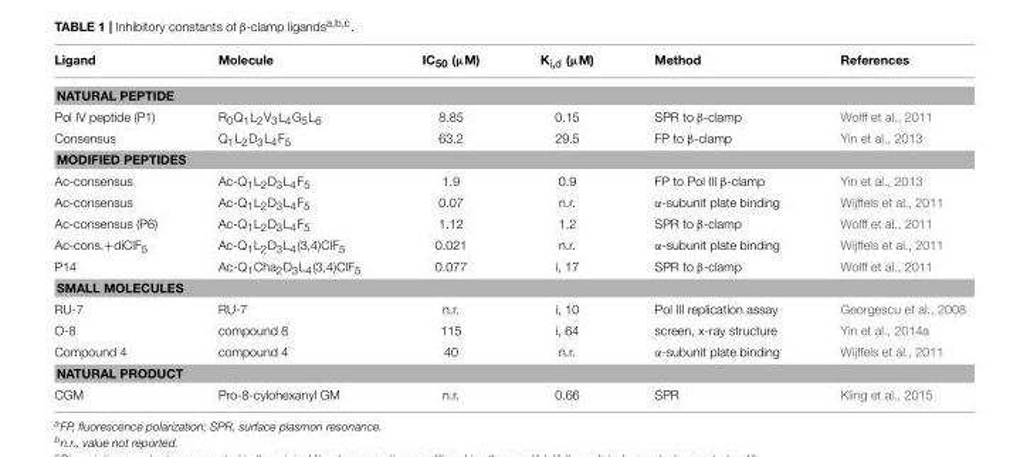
<table><thead><tr><td>Ligand</td><td>Molecule</td><td>IC<sub>50</sub> (µM)</td><td>K<sub>i,d</sub> (µM)</td><td>Method</td><td>References</td></tr></thead><tbody><tr><td colspan="6">NATURAL PEPTIDE</td></tr><tr><td>Pol IV peptide (P1)</td><td>R<sub>0</sub>Q<sub>1</sub>L<sub>2</sub>V<sub>3</sub>L<sub>4</sub>G<sub>5</sub>L<sub>6</sub></td><td>8.85</td><td>0.15</td><td>SPR to β-clamp</td><td>Wolff et al., 2011</td></tr><tr><td>Consensus</td><td>Q<sub>1</sub>L<sub>2</sub>D<sub>3</sub>L<sub>4</sub>F<sub>5</sub></td><td>63.2</td><td>29.5</td><td>FP to β-clamp</td><td>Yin et al., 2013</td></tr><tr><td colspan="6">MODIFIED PEPTIDES</td></tr><tr><td>Ac-consensus</td><td>Ac-Q<sub>1</sub>L<sub>2</sub>D<sub>3</sub>L<sub>4</sub>F<sub>5</sub></td><td>1.9</td><td>0.9</td><td>FP to Pol III β-clamp</td><td>Yin et al., 2013</td></tr><tr><td>Ac-consensus</td><td>Ac-Q<sub>1</sub>L<sub>2</sub>D<sub>3</sub>L<sub>4</sub>F<sub>5</sub></td><td>0.07</td><td>n.r.</td><td>α-subunit plate binding</td><td>Wijffels et al., 2011</td></tr><tr><td>Ac-consensus (P6)</td><td>Ac-Q<sub>1</sub>L<sub>2</sub>D<sub>3</sub>L<sub>4</sub>F<sub>5</sub></td><td>1.12</td><td>1.2</td><td>SPR to β-clamp</td><td>Wolff et al., 2011</td></tr><tr><td>Ac-cons.+diClF<sub>5</sub></td><td>Ac-Q<sub>1</sub>L<sub>2</sub>D<sub>3</sub>L<sub>4</sub>(3,4)ClF<sub>5</sub></td><td>0.021</td><td>n.r.</td><td>α-subunit plate binding</td><td>Wijffels et al., 2011</td></tr><tr><td>P14</td><td>Ac-Q<sub>1</sub>Cha<sub>2</sub>D<sub>3</sub>L<sub>4</sub>(3,4)ClF<sub>5</sub></td><td>0.077</td><td>i, 17</td><td>SPR to β-clamp</td><td>Wolff et al., 2011</td></tr><tr><td colspan="6">SMALL MOLECULES</td></tr><tr><td>RU-7</td><td>RU-7</td><td>n.r.</td><td>i, 10</td><td>Pol III replication assay</td><td>Georgescu et al., 2008</td></tr><tr><td>O-8</td><td>compound 8</td><td>115</td><td>i, 64</td><td>screen, x-ray structure</td><td>Yin et al., 2014a</td></tr><tr><td>Compound 4</td><td>compound 4</td><td>40</td><td>n.r.</td><td>α-subunit plate binding</td><td>Wijffels et al., 2011</td></tr><tr><td colspan="6">NATURAL PRODUCT</td></tr><tr><td>CGM</td><td>Pro-8-cylohexanyl GM</td><td>n.r.</td><td>0.66</td><td>SPR</td><td>Kling et al., 2015</td></tr></tbody></table>